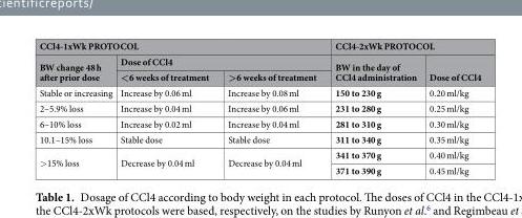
<table><thead><tr><td colspan="3">CCl4-1xWk PROTOCOL</td><td colspan="2">CCl4-2xWk PROTOCOL</td></tr><tr><td rowspan="2">BW change 48 h after prior dose</td><td colspan="2">Dose of CCl4</td><td rowspan="2">BW in the day of CCl4 administration</td><td rowspan="2">Dose of CCl4</td></tr><tr><td>&lt;6 weeks of treatment</td><td>&gt;6 weeks of treatment</td></tr></thead><tbody><tr><td>Stable or increasing</td><td>Increase by 0.06 ml</td><td>Increase by 0.08 ml</td><td>150 to 230 g</td><td>0.20 ml/kg</td></tr><tr><td>2–5.9% loss</td><td>Increase by 0.04 ml</td><td>Increase by 0.06 ml</td><td>231 to 280 g</td><td>0.25 ml/kg</td></tr><tr><td>6–10% loss</td><td>Increase by 0.02 ml</td><td>Increase by 0.04 ml</td><td>281 to 310 g</td><td>0.30 ml/kg</td></tr><tr><td>10.1–15% loss</td><td>Stable dose</td><td>Stable dose</td><td>311 to 340 g</td><td>0.35 ml/kg</td></tr><tr><td rowspan="2">&gt;15% loss</td><td rowspan="2">Decrease by 0.04 ml</td><td rowspan="2">Decrease by 0.04 ml</td><td>341 to 370 g</td><td>0.40 ml/kg</td></tr><tr><td>371 to 390 g</td><td>0.45 ml/kg</td></tr></tbody></table>